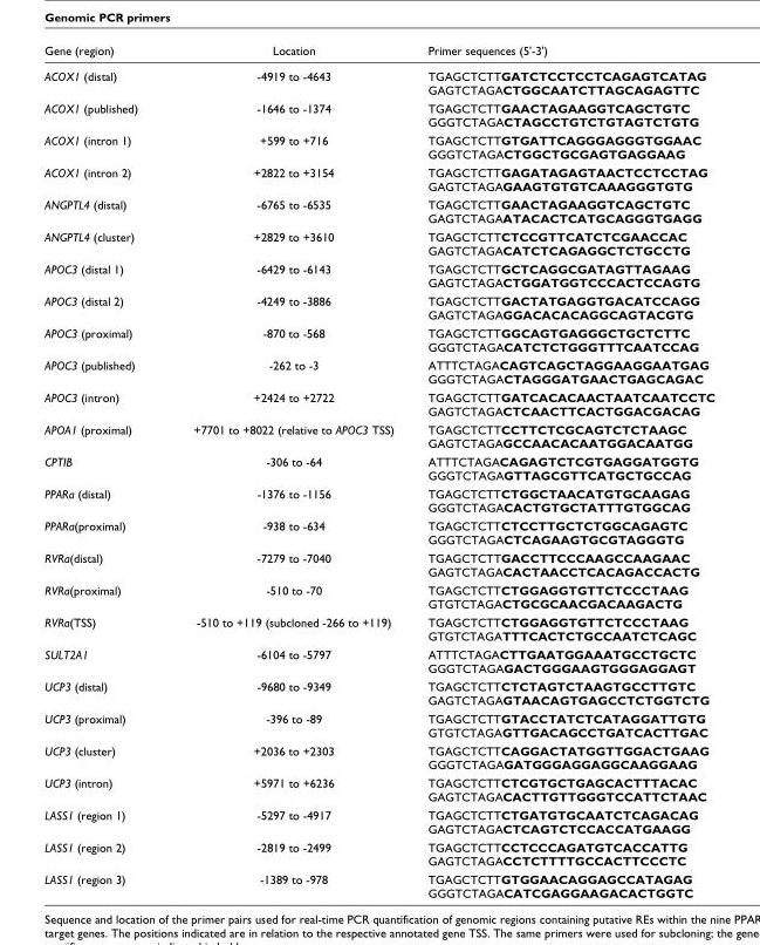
<table><thead><tr><td>Gene (region)</td><td>Location</td><td>Primer sequences (5&#x27;-3&#x27;)</td></tr></thead><tbody><tr><td>ACOX1 (distal)</td><td>-4919 to -4643</td><td>TGAGCTCTTGATCTCCTCCTCAGAGTCATAG GAGTCTAGACTGGCAATCTTAGCAGAGTTC</td></tr><tr><td>ACOX1 (published)</td><td>-1646 to -1374</td><td>TGAGCTCTTGAACTAGAAGGTCAGCTGTC GGGTCTAGACTAGCCTGTCTGTAGTCTGTG</td></tr><tr><td>ACOX1 (intron 1)</td><td>+599 to +716</td><td>TGAGCTCTTGTGATTCAGGGAGGGTGGAAC GGGTCTAGACTGGCTGCGAGTGAGGAAG</td></tr><tr><td>ACOX1 (intron 2)</td><td>+2822 to +3154</td><td>TGAGCTCTTGAGATAGAGTAACTCCTCCTAG GAGTCTAGAGAAGTGTGTCAAAGGGTGTG</td></tr><tr><td>ANGPTL4 (distal)</td><td>-6765 to -6535</td><td>TGAGCTCTTGAACTAGAAGGTCAGCTGTC GAGTCTAGAATACACTCATGCAGGGTGAGG</td></tr><tr><td>ANGPTL4 (cluster)</td><td>+2829 to +3610</td><td>TGAGCTCTTCTCCGTTCATCTCGAACCAC GAGTCTAGACATCTCAGAGGCTCTGCCTG</td></tr><tr><td>APOC3 (distal 1)</td><td>-6429 to -6143</td><td>TGAGCTCTTGCTCAGGCGATAGTTAGAAG GAGTCTAGACTGGATGGTCCCACTCCAGTG</td></tr><tr><td>APOC3 (distal 2)</td><td>-4249 to -3886</td><td>TGAGCTCTTGACTATGAGGTGACATCCAGG GAGTCTAGAGGACACACAGGCAGTACGTG</td></tr><tr><td>APOC3 (proximal)</td><td>-870 to -568</td><td>TGAGCTCTTGGCAGTGAGGGCTGCTCTTC GGGTCTAGACATCTCTGGGTTTCAATCCAG</td></tr><tr><td>APOC3 (published)</td><td>-262 to -3</td><td>ATTTCTAGACAGTCAGCTAGGAAGGAATGAG GGGTCTAGACTAGGGATGAACTGAGCAGAC</td></tr><tr><td>APOC3 (intron)</td><td>+2424 to +2722</td><td>TGAGCTCTTGATCACACAACTAATCAATCCTC GAGTCTAGACTCAACTTCACTGGACGACAG</td></tr><tr><td>APOA1 (proximal)</td><td>+7701 to +8022 (relative to APOC3 TSS)</td><td>TGAGCTCTTCCTTCTCGCAGTCTCTAAGC GAGTCTAGAGCCAACACAATGGACAATGG</td></tr><tr><td>CPTIB</td><td>-306 to -64</td><td>ATTTCTAGACAGAGTCTCGTGAGGATGGTG GGGTCTAGAGTTAGCGTTCATGCTGCCAG</td></tr><tr><td>PPARa (distal)</td><td>-1376 to -1156</td><td>TGAGCTCTTCTGGCTAACATGTGCAAGAG GGGTCTAGACACTGTGCTATTTGTGGCAG</td></tr><tr><td>PPARa(proximal)</td><td>-938 to -634</td><td>TGAGCTCTTCTCCTTGCTCTGGCAGAGTC GGGTCTAGACTCAGAAGTGCGTAGGGTG</td></tr><tr><td>RVRa(distal)</td><td>-7279 to -7040</td><td>TGAGCTCTTGACCTTCCCAAGCCAAGAAC GAGTCTAGACACTAACCTCACAGACCACTG</td></tr><tr><td>RVRa(proximal)</td><td>-510 to -70</td><td>TGAGCTCTTCTGGAGGTGTTCTCCCTAAG GTGTCTAGACTGCGCAACGACAAGACTG</td></tr><tr><td>RVRa(TSS)</td><td>-510 to +119 (subcloned -266 to +119)</td><td>TGAGCTCTTCTGGAGGTGTTCTCCCTAAG GTGTCTAGATTTCACTCTGCCAATCTCAGC</td></tr><tr><td>SULT2A1</td><td>-6104 to -5797</td><td>ATTTCTAGACTTGAATGGAAATGCCTGCTC GGGTCTAGAGACTGGGAAGTGGGAGGAGT</td></tr><tr><td>UCP3 (distal)</td><td>-9680 to -9349</td><td>TGAGCTCTTCTCTAGTCTAAGTGCCTTGTC GAGTCTAGAGTAACAGTGAGCCTCTGGTCTG</td></tr><tr><td>UCP3 (proximal)</td><td>-396 to -89</td><td>TGAGCTCTTGTACCTATCTCATAGGATTGTG GTGTCTAGAGTTGACAGCCTGATCACTTGAC</td></tr><tr><td>UCP3 (cluster)</td><td>+2036 to +2303</td><td>TGAGCTCTTCAGGACTATGGTTGGACTGAAG GGGTCTAGAGATGGGAGGAGGCAAGGAAG</td></tr><tr><td>UCP3 (intron)</td><td>+5971 to +6236</td><td>TGAGCTCTTCTCGTGCTGAGCACTTTACAC GAGTCTAGACACTTGTTGGGTCCATTCTAAC</td></tr><tr><td>LASS1 (region 1)</td><td>-5297 to -4917</td><td>TGAGCTCTTCTGATGTGCAATCTCAGACAG GAGTCTAGACTCAGTCTCCACCATGAAGG</td></tr><tr><td>LASS1 (region 2)</td><td>-2819 to -2499</td><td>TGAGCTCTTCCTCCCAGATGTCACCATTG GAGTCTAGACCTCTTTTGCCACTTCCCTC</td></tr><tr><td>LASS1 (region 3)</td><td>-1389 to -978</td><td>TGAGCTCTTGTGGAACAGGAGCCATAGAG GGGTCTAGACATCGAGGAAGACACTGGTC</td></tr></tbody></table>